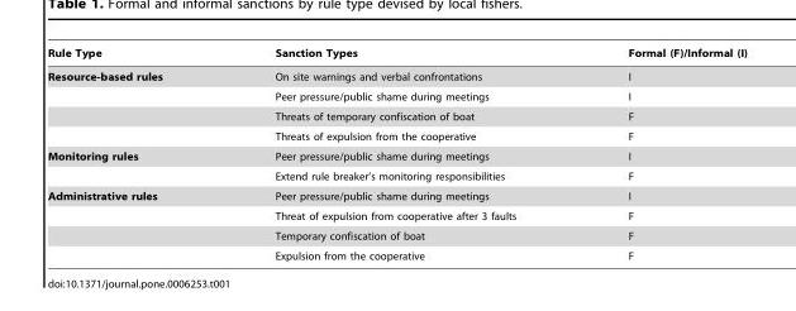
<table><thead><tr><td>Rule Type</td><td>Sanction Types</td><td>Formal (F)/Informal (I)</td></tr></thead><tbody><tr><td rowspan="4">Resource-based rules</td><td>On site warnings and verbal confrontations</td><td>I</td></tr><tr><td>Peer pressure/public shame during meetings</td><td>I</td></tr><tr><td>Threats of temporary confiscation of boat</td><td>F</td></tr><tr><td>Threats of expulsion from the cooperative</td><td>F</td></tr><tr><td rowspan="2">Monitoring rules</td><td>Peer pressure/public shame during meetings</td><td>I</td></tr><tr><td>Extend rule breaker’s monitoring responsibilities</td><td>F</td></tr><tr><td rowspan="4">Administrative rules</td><td>Peer pressure/public shame during meetings</td><td>I</td></tr><tr><td>Threat of expulsion from cooperative after 3 faults</td><td>F</td></tr><tr><td>Temporary confiscation of boat</td><td>F</td></tr><tr><td>Expulsion from the cooperative</td><td>F</td></tr></tbody></table>